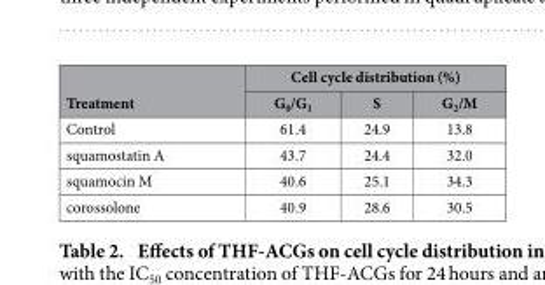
<table><thead><tr><td rowspan="2">Treatment</td><td colspan="3">Cell cycle distribution (%)</td></tr><tr><td>G<sub>0</sub>/G<sub>1</sub></td><td>S</td><td>G<sub>2</sub>/M</td></tr></thead><tbody><tr><td>Control</td><td>61.4</td><td>24.9</td><td>13.8</td></tr><tr><td>squamostatin A</td><td>43.7</td><td>24.4</td><td>32.0</td></tr><tr><td>squamocin M</td><td>40.6</td><td>25.1</td><td>34.3</td></tr><tr><td>corossolone</td><td>40.9</td><td>28.6</td><td>30.5</td></tr></tbody></table>